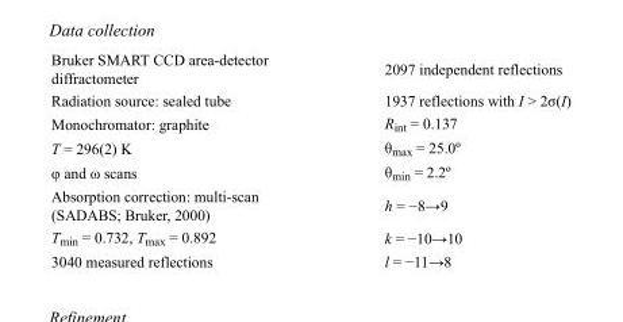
<table><tbody><tr><td>Bruker SMART CCD area-detector diffractometer</td><td>2097 independent reflections</td></tr><tr><td>Radiation source: sealed tube</td><td>1937 reflections with I &gt; 2σ(I)</td></tr><tr><td>Monochromator: graphite</td><td>R<sub>int</sub> = 0.137</td></tr><tr><td>T = 296(2) K</td><td>θ<sub>max</sub> = 25.0º</td></tr><tr><td>φ and ω scans</td><td>θ<sub>min</sub> = 2.2º</td></tr><tr><td>Absorption correction: multi-scan (SADABS; Bruker, 2000)</td><td>h = −8→9</td></tr><tr><td>T<sub>min</sub> = 0.732, T<sub>max</sub> = 0.892</td><td>k = −10→10</td></tr><tr><td>3040 measured reflections</td><td>l = −11→8</td></tr></tbody></table>